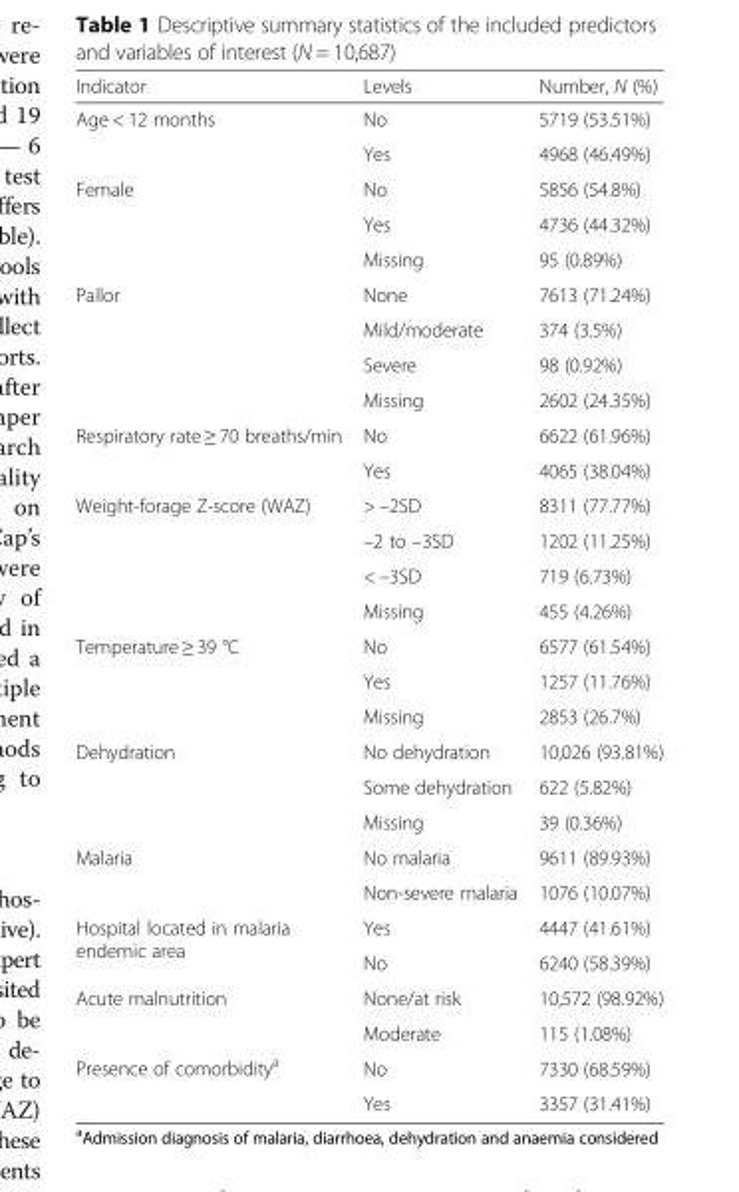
<table><thead><tr><td>Indicator</td><td>Levels</td><td>Number, N (%)</td></tr></thead><tbody><tr><td rowspan="2">Age &lt; 12 months</td><td>No</td><td>5719 (53.51%)</td></tr><tr><td>Yes</td><td>4968 (46.49%)</td></tr><tr><td rowspan="3">Female</td><td>No</td><td>5856 (54.8%)</td></tr><tr><td>Yes</td><td>4736 (44.32%)</td></tr><tr><td>Missing</td><td>95 (0.89%)</td></tr><tr><td rowspan="4">Pallor</td><td>None</td><td>7613 (71.24%)</td></tr><tr><td>Mild/moderate</td><td>374 (3.5%)</td></tr><tr><td>Severe</td><td>98 (0.92%)</td></tr><tr><td>Missing</td><td>2602 (24.35%)</td></tr><tr><td rowspan="2">Respiratory rate ≥ 70 breaths/min</td><td>No</td><td>6622 (61.96%)</td></tr><tr><td>Yes</td><td>4065 (38.04%)</td></tr><tr><td rowspan="4">Weight-forage Z-score (WAZ)</td><td>&gt; –2SD</td><td>8311 (77.77%)</td></tr><tr><td>–2 to –3SD</td><td>1202 (11.25%)</td></tr><tr><td>&lt; –3SD</td><td>719 (6.73%)</td></tr><tr><td>Missing</td><td>455 (4.26%)</td></tr><tr><td rowspan="3">Temperature ≥ 39 °C</td><td>No</td><td>6577 (61.54%)</td></tr><tr><td>Yes</td><td>1257 (11.76%)</td></tr><tr><td>Missing</td><td>2853 (26.7%)</td></tr><tr><td rowspan="3">Dehydration</td><td>No dehydration</td><td>10,026 (93.81%)</td></tr><tr><td>Some dehydration</td><td>622 (5.82%)</td></tr><tr><td>Missing</td><td>39 (0.36%)</td></tr><tr><td rowspan="2">Malaria</td><td>No malaria</td><td>9611 (89.93%)</td></tr><tr><td>Non-severe malaria</td><td>1076 (10.07%)</td></tr><tr><td rowspan="2">Hospital located in malaria endemic area</td><td>Yes</td><td>4447 (41.61%)</td></tr><tr><td>No</td><td>6240 (58.39%)</td></tr><tr><td rowspan="2">Acute malnutrition</td><td>None/at risk</td><td>10,572 (98.92%)</td></tr><tr><td>Moderate</td><td>115 (1.08%)</td></tr><tr><td rowspan="2">Presence of comorbidity<sup>a</sup></td><td>No</td><td>7330 (68.59%)</td></tr><tr><td>Yes</td><td>3357 (31.41%)</td></tr></tbody></table>